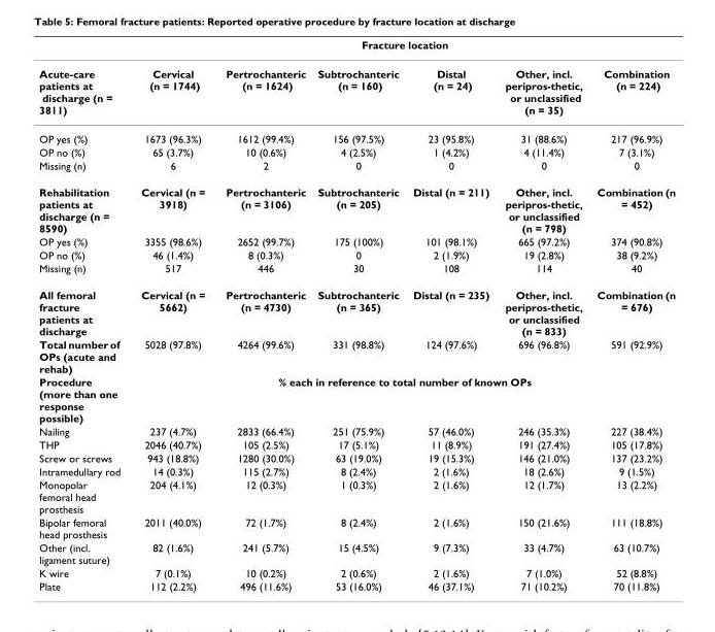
<table><thead><tr><td rowspan="2">Acute-care patients at discharge (n = 3811)</td><td colspan="6">Fracture location</td></tr><tr><td>Cervical (n = 1744)</td><td>Pertrochanteric (n = 1624)</td><td>Subtrochanteric (n = 160)</td><td>Distal (n = 24)</td><td>Other, incl. peripros-thetic, or unclassified (n = 35)</td><td>Combination (n = 224)</td></tr></thead><tbody><tr><td>OP yes (%)</td><td>1673 (96.3%)</td><td>1612 (99.4%)</td><td>156 (97.5%)</td><td>23 (95.8%)</td><td>31 (88.6%)</td><td>217 (96.9%)</td></tr><tr><td>OP no (%)</td><td>65 (3.7%)</td><td>10 (0.6%)</td><td>4 (2.5%)</td><td>1 (4.2%)</td><td>4 (11.4%)</td><td>7 (3.1%)</td></tr><tr><td>Missing (n)</td><td>6</td><td>2</td><td>0</td><td>0</td><td>0</td><td>0</td></tr><tr><td>Rehabilitation patients at discharge (n = 8590)</td><td>Cervical (n = 3918)</td><td>Pertrochanteric (n = 3106)</td><td>Subtrochanteric (n = 205)</td><td>Distal (n = 211)</td><td>Other, incl. peripros-thetic, or unclassified (n = 798)</td><td>Combination (n = 452)</td></tr><tr><td>OP yes (%)</td><td>3355 (98.6%)</td><td>2652 (99.7%)</td><td>175 (100%)</td><td>101 (98.1%)</td><td>665 (97.2%)</td><td>374 (90.8%)</td></tr><tr><td>OP no (%)</td><td>46 (1.4%)</td><td>8 (0.3%)</td><td>0</td><td>2 (1.9%)</td><td>19 (2.8%)</td><td>38 (9.2%)</td></tr><tr><td>Missing (n)</td><td>517</td><td>446</td><td>30</td><td>108</td><td>114</td><td>40</td></tr><tr><td>All femoral fracture patients at discharge</td><td>Cervical (n = 5662)</td><td>Pertrochanteric (n = 4730)</td><td>Subtrochanteric (n = 365)</td><td>Distal (n = 235)</td><td>Other, incl. peripros-thetic, or unclassified (n = 833)</td><td>Combination (n = 676)</td></tr><tr><td>Total number of OPs (acute and rehab)</td><td>5028 (97.8%)</td><td>4264 (99.6%)</td><td>331 (98.8%)</td><td>124 (97.6%)</td><td>696 (96.8%)</td><td>591 (92.9%)</td></tr><tr><td>Procedure (more than one response possible)</td><td colspan="6">% each in reference to total number of known OPs</td></tr><tr><td>Nailing</td><td>237 (4.7%)</td><td>2833 (66.4%)</td><td>251 (75.9%)</td><td>57 (46.0%)</td><td>246 (35.3%)</td><td>227 (38.4%)</td></tr><tr><td>THP</td><td>2046 (40.7%)</td><td>105 (2.5%)</td><td>17 (5.1%)</td><td>11 (8.9%)</td><td>191 (27.4%)</td><td>105 (17.8%)</td></tr><tr><td>Screw or screws</td><td>943 (18.8%)</td><td>1280 (30.0%)</td><td>63 (19.0%)</td><td>19 (15.3%)</td><td>146 (21.0%)</td><td>137 (23.2%)</td></tr><tr><td>Intramedullary rod</td><td>14 (0.3%)</td><td>115 (2.7%)</td><td>8 (2.4%)</td><td>2 (1.6%)</td><td>18 (2.6%)</td><td>9 (1.5%)</td></tr><tr><td>Monopolar femoral head prosthesis</td><td>204 (4.1%)</td><td>12 (0.3%)</td><td>1 (0.3%)</td><td>2 (1.6%)</td><td>12 (1.7%)</td><td>13 (2.2%)</td></tr><tr><td>Bipolar femoral head prosthesis</td><td>2011 (40.0%)</td><td>72 (1.7%)</td><td>8 (2.4%)</td><td>2 (1.6%)</td><td>150 (21.6%)</td><td>111 (18.8%)</td></tr><tr><td>Other (incl. ligament suture)</td><td>82 (1.6%)</td><td>241 (5.7%)</td><td>15 (4.5%)</td><td>9 (7.3%)</td><td>33 (4.7%)</td><td>63 (10.7%)</td></tr><tr><td>K wire</td><td>7 (0.1%)</td><td>10 (0.2%)</td><td>2 (0.6%)</td><td>2 (1.6%)</td><td>7 (1.0%)</td><td>52 (8.8%)</td></tr><tr><td>Plate</td><td>112 (2.2%)</td><td>496 (11.6%)</td><td>53 (16.0%)</td><td>46 (37.1%)</td><td>71 (10.2%)</td><td>70 (11.8%)</td></tr></tbody></table>